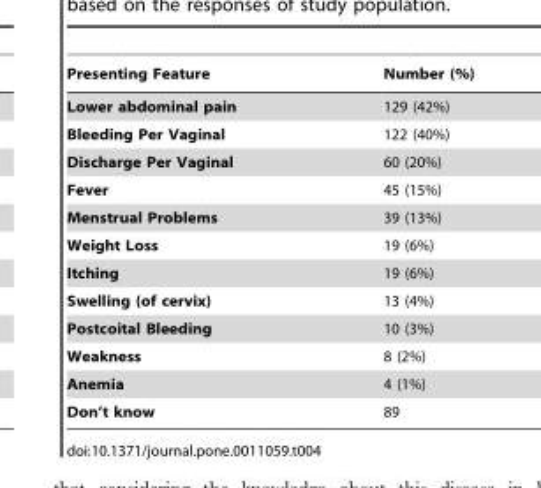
<table><thead><tr><td>Presenting Feature</td><td>Number (%)</td></tr></thead><tbody><tr><td>Lower abdominal pain</td><td>129 (42%)</td></tr><tr><td>Bleeding Per Vaginal</td><td>122 (40%)</td></tr><tr><td>Discharge Per Vaginal</td><td>60 (20%)</td></tr><tr><td>Fever</td><td>45 (15%)</td></tr><tr><td>Menstrual Problems</td><td>39 (13%)</td></tr><tr><td>Weight Loss</td><td>19 (6%)</td></tr><tr><td>Itching</td><td>19 (6%)</td></tr><tr><td>Swelling (of cervix)</td><td>13 (4%)</td></tr><tr><td>Postcoital Bleeding</td><td>10 (3%)</td></tr><tr><td>Weakness</td><td>8 (2%)</td></tr><tr><td>Anemia</td><td>4 (1%)</td></tr><tr><td>Don’t know</td><td>89</td></tr></tbody></table>